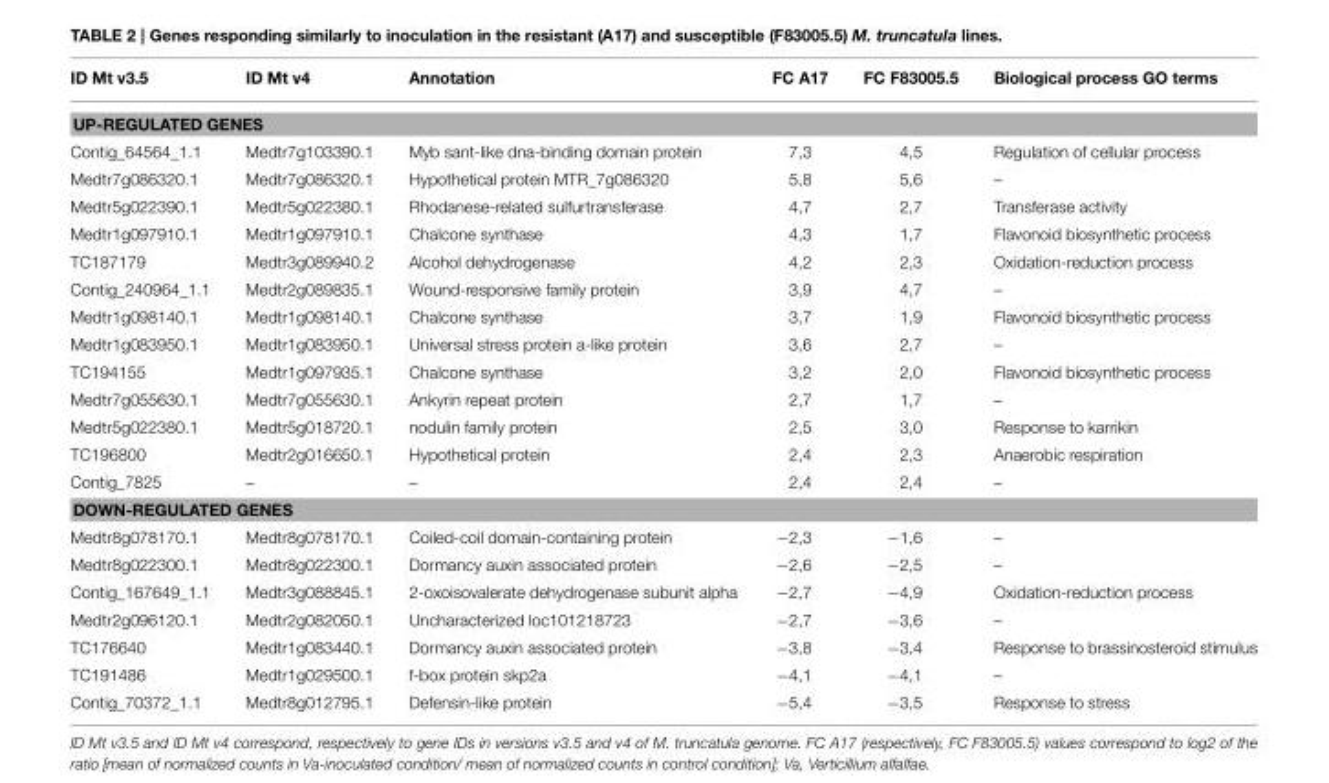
<table><thead><tr><td>ID Mt v3.5</td><td>ID Mt v4</td><td>Annotation</td><td>FC A17</td><td>FC F83005.5</td><td>Biological process GO terms</td></tr></thead><tbody><tr><td colspan="6">UP-REGULATED GENES</td></tr><tr><td>Contig_64564_1.1</td><td>Medtr7g103390.1</td><td>Myb sant-like dna-binding domain protein</td><td>7,3</td><td>4,5</td><td>Regulation of cellular process</td></tr><tr><td>Medtr7g086320.1</td><td>Medtr7g086320.1</td><td>Hypothetical protein MTR_7g086320</td><td>5,8</td><td>5,6</td><td>–</td></tr><tr><td>Medtr5g022390.1</td><td>Medtr5g022380.1</td><td>Rhodanese-related sulfurtransferase</td><td>4,7</td><td>2,7</td><td>Transferase activity</td></tr><tr><td>Medtr1g097910.1</td><td>Medtr1g097910.1</td><td>Chalcone synthase</td><td>4,3</td><td>1,7</td><td>Flavonoid biosynthetic process</td></tr><tr><td>TC187179</td><td>Medtr3g089940.2</td><td>Alcohol dehydrogenase</td><td>4,2</td><td>2,3</td><td>Oxidation-reduction process</td></tr><tr><td>Contig_240964_1.1</td><td>Medtr2g089835.1</td><td>Wound-responsive family protein</td><td>3,9</td><td>4,7</td><td>–</td></tr><tr><td>Medtr1g098140.1</td><td>Medtr1g098140.1</td><td>Chalcone synthase</td><td>3,7</td><td>1,9</td><td>Flavonoid biosynthetic process</td></tr><tr><td>Medtr1g083950.1</td><td>Medtr1g083950.1</td><td>Universal stress protein a-like protein</td><td>3,6</td><td>2,7</td><td>–</td></tr><tr><td>TC194155</td><td>Medtr1g097935.1</td><td>Chalcone synthase</td><td>3,2</td><td>2,0</td><td>Flavonoid biosynthetic process</td></tr><tr><td>Medtr7g055630.1</td><td>Medtr7g055630.1</td><td>Ankyrin repeat protein</td><td>2,7</td><td>1,7</td><td>–</td></tr><tr><td>Medtr5g022380.1</td><td>Medtr5g018720.1</td><td>nodulin family protein</td><td>2,5</td><td>3,0</td><td>Response to karrikin</td></tr><tr><td>TC196800</td><td>Medtr2g016650.1</td><td>Hypothetical protein</td><td>2,4</td><td>2,3</td><td>Anaerobic respiration</td></tr><tr><td>Contig_7825</td><td>–</td><td>–</td><td>2,4</td><td>2,4</td><td>–</td></tr><tr><td colspan="6">DOWN-REGULATED GENES</td></tr><tr><td>Medtr8g078170.1</td><td>Medtr8g078170.1</td><td>Coiled-coil domain-containing protein</td><td>−2,3</td><td>−1,6</td><td>–</td></tr><tr><td>Medtr8g022300.1</td><td>Medtr8g022300.1</td><td>Dormancy auxin associated protein</td><td>−2,6</td><td>−2,5</td><td>–</td></tr><tr><td>Contig_167649_1.1</td><td>Medtr3g088845.1</td><td>2-oxoisovalerate dehydrogenase subunit alpha</td><td>−2,7</td><td>−4,9</td><td>Oxidation-reduction process</td></tr><tr><td>Medtr2g096120.1</td><td>Medtr2g082050.1</td><td>Uncharacterized loc101218723</td><td>−2,7</td><td>−3,6</td><td>–</td></tr><tr><td>TC176640</td><td>Medtr1g083440.1</td><td>Dormancy auxin associated protein</td><td>−3,8</td><td>−3,4</td><td>Response to brassinosteroid stimulus</td></tr><tr><td>TC191486</td><td>Medtr1g029500.1</td><td>f-box protein skp2a</td><td>−4,1</td><td>−4,1</td><td>–</td></tr><tr><td>Contig_70372_1.1</td><td>Medtr8g012795.1</td><td>Defensin-like protein</td><td>−5,4</td><td>−3,5</td><td>Response to stress</td></tr></tbody></table>